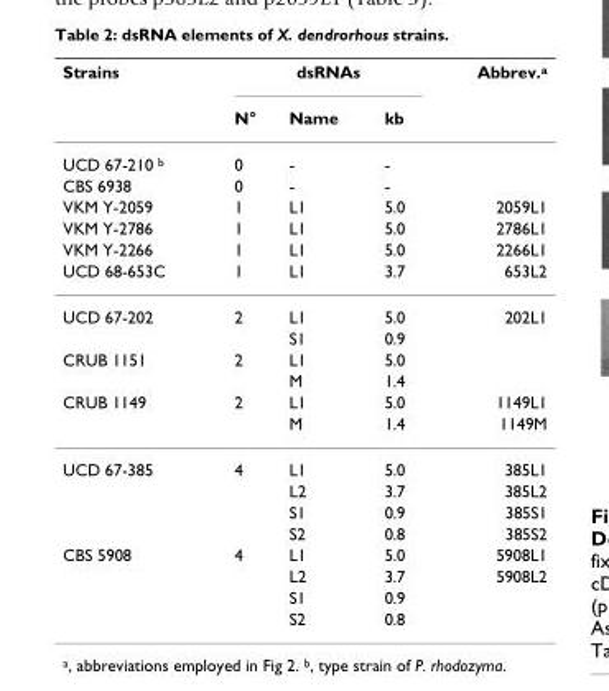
<table><thead><tr><td rowspan="2">Strains</td><td colspan="3">dsRNAs</td><td rowspan="2">Abbrev.<sup>a</sup></td></tr><tr><td>N°</td><td>Name</td><td>kb</td></tr></thead><tbody><tr><td>UCD 67-210 <sup>b</sup></td><td>0</td><td>-</td><td>-</td><td></td></tr><tr><td>CBS 6938</td><td>0</td><td>-</td><td>-</td><td></td></tr><tr><td>VKM Y-2059</td><td>1</td><td>L1</td><td>5.0</td><td>2059L1</td></tr><tr><td>VKM Y-2786</td><td>1</td><td>L1</td><td>5.0</td><td>2786L1</td></tr><tr><td>VKM Y-2266</td><td>1</td><td>L1</td><td>5.0</td><td>2266L1</td></tr><tr><td>UCD 68-653C</td><td>1</td><td>L1</td><td>3.7</td><td>653L2</td></tr><tr><td rowspan="2">UCD 67-202</td><td>2</td><td>L1</td><td>5.0</td><td>202L1</td></tr><tr><td></td><td>S1</td><td>0.9</td><td></td></tr><tr><td rowspan="2">CRUB 1151</td><td>2</td><td>L1</td><td>5.0</td><td></td></tr><tr><td></td><td>M</td><td>1.4</td><td></td></tr><tr><td rowspan="2">CRUB 1149</td><td>2</td><td>L1</td><td>5.0</td><td>1149L1</td></tr><tr><td></td><td>M</td><td>1.4</td><td>1149M</td></tr><tr><td rowspan="4">UCD 67-385</td><td>4</td><td>L1</td><td>5.0</td><td>385L1</td></tr><tr><td></td><td>L2</td><td>3.7</td><td>385L2</td></tr><tr><td></td><td>S1</td><td>0.9</td><td>385S1</td></tr><tr><td></td><td>S2</td><td>0.8</td><td>385S2</td></tr><tr><td rowspan="4">CBS 5908</td><td>4</td><td>L1</td><td>5.0</td><td>5908L1</td></tr><tr><td></td><td>L2</td><td>3.7</td><td>5908L2</td></tr><tr><td></td><td>S1</td><td>0.9</td><td></td></tr><tr><td></td><td>S2</td><td>0.8</td><td></td></tr></tbody></table>